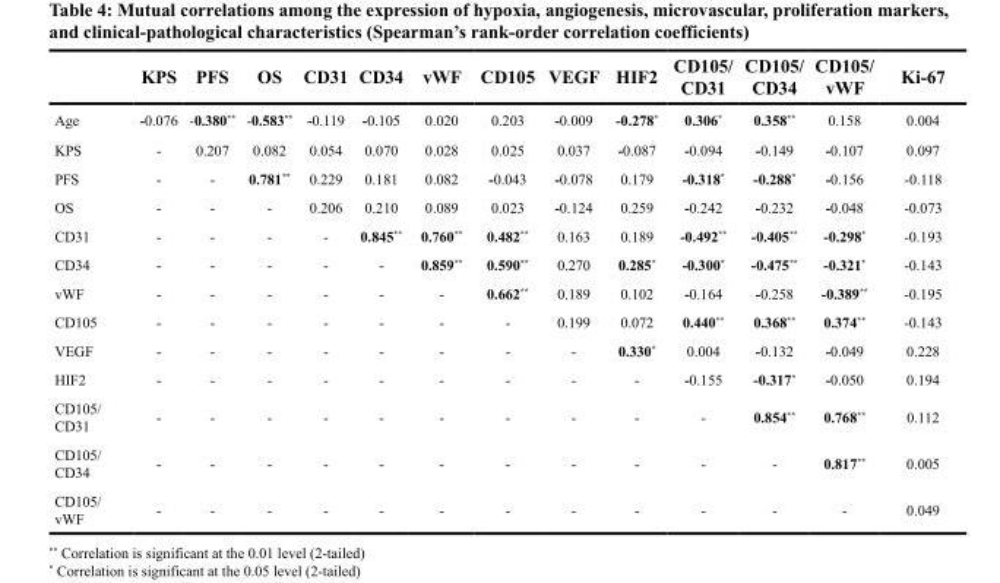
<table><thead><tr><td></td><td>KPS</td><td>PFS</td><td>OS</td><td>CD31</td><td>CD34</td><td>vWF</td><td>CD105</td><td>VEGF</td><td>HIF2</td><td>CD105/ CD31</td><td>CD105/ CD34</td><td>CD105/ vWF</td><td>Ki-67</td></tr></thead><tbody><tr><td>Age</td><td>-0.076</td><td>-0.380**</td><td>-0.583**</td><td>-0.119</td><td>-0.105</td><td>0.020</td><td>0.203</td><td>-0.009</td><td>-0.278*</td><td>0.306*</td><td>0.358**</td><td>0.158</td><td>0.004</td></tr><tr><td>KPS</td><td>-</td><td>0.207</td><td>0.082</td><td>0.054</td><td>0.070</td><td>0.028</td><td>0.025</td><td>0.037</td><td>-0.087</td><td>-0.094</td><td>-0.149</td><td>-0.107</td><td>0.097</td></tr><tr><td>PFS</td><td>-</td><td>-</td><td>0.781**</td><td>0.229</td><td>0.181</td><td>0.082</td><td>-0.043</td><td>-0.078</td><td>0.179</td><td>-0.318*</td><td>-0.288*</td><td>-0.156</td><td>-0.118</td></tr><tr><td>OS</td><td>-</td><td>-</td><td>-</td><td>0.206</td><td>0.210</td><td>0.089</td><td>0.023</td><td>-0.124</td><td>0.259</td><td>-0.242</td><td>-0.232</td><td>-0.048</td><td>-0.073</td></tr><tr><td>CD31</td><td>-</td><td>-</td><td>-</td><td>-</td><td>0.845**</td><td>0.760**</td><td>0.482**</td><td>0.163</td><td>0.189</td><td>-0.492**</td><td>-0.405**</td><td>-0.298*</td><td>-0.193</td></tr><tr><td>CD34</td><td>-</td><td>-</td><td>-</td><td>-</td><td>-</td><td>0.859**</td><td>0.590**</td><td>0.270</td><td>0.285*</td><td>-0.300*</td><td>-0.475**</td><td>-0.321*</td><td>-0.143</td></tr><tr><td>vWF</td><td>-</td><td>-</td><td>-</td><td>-</td><td>-</td><td>-</td><td>0.662**</td><td>0.189</td><td>0.102</td><td>-0.164</td><td>-0.258</td><td>-0.389**</td><td>-0.195</td></tr><tr><td>CD105</td><td>-</td><td>-</td><td>-</td><td>-</td><td>-</td><td>-</td><td>-</td><td>0.199</td><td>0.072</td><td>0.440**</td><td>0.368**</td><td>0.374**</td><td>-0.143</td></tr><tr><td>VEGF</td><td>-</td><td>-</td><td>-</td><td>-</td><td>-</td><td>-</td><td>-</td><td>-</td><td>0.330*</td><td>0.004</td><td>-0.132</td><td>-0.049</td><td>0.228</td></tr><tr><td>HIF2</td><td>-</td><td>-</td><td>-</td><td>-</td><td>-</td><td>-</td><td>-</td><td>-</td><td>-</td><td>-0.155</td><td>-0.317*</td><td>-0.050</td><td>0.194</td></tr><tr><td>CD105/ CD31</td><td>-</td><td>-</td><td>-</td><td>-</td><td>-</td><td>-</td><td>-</td><td>-</td><td>-</td><td>-</td><td>0.854**</td><td>0.768**</td><td>0.112</td></tr><tr><td>CD105/ CD34</td><td>-</td><td>-</td><td>-</td><td>-</td><td>-</td><td>-</td><td>-</td><td>-</td><td>-</td><td>-</td><td>-</td><td>0.817**</td><td>0.005</td></tr><tr><td>CD105/ vWF</td><td>-</td><td>-</td><td>-</td><td>-</td><td>-</td><td>-</td><td>-</td><td>-</td><td>-</td><td>-</td><td>-</td><td>-</td><td>0.049</td></tr></tbody></table>